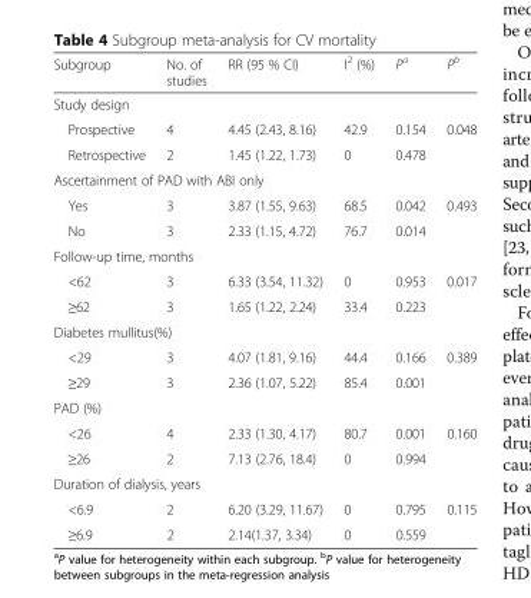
<table><thead><tr><td>Subgroup</td><td>No. of studies</td><td>RR (95 % CI)</td><td>I<sup>2</sup> (%)</td><td>P<sup>a</sup></td><td>P<sup>b</sup></td></tr></thead><tbody><tr><td colspan="6">Study design</td></tr><tr><td>Prospective</td><td>4</td><td>4.45 (2.43, 8.16)</td><td>42.9</td><td>0.154</td><td rowspan="2">0.048</td></tr><tr><td>Retrospective</td><td>2</td><td>1.45 (1.22, 1.73)</td><td>0</td><td>0.478</td></tr><tr><td colspan="6">Ascertainment of PAD with ABI only</td></tr><tr><td>Yes</td><td>3</td><td>3.87 (1.55, 9.63)</td><td>68.5</td><td>0.042</td><td rowspan="2">0.493</td></tr><tr><td>No</td><td>3</td><td>2.33 (1.15, 4.72)</td><td>76.7</td><td>0.014</td></tr><tr><td colspan="6">Follow-up time, months</td></tr><tr><td>&lt;62</td><td>3</td><td>6.33 (3.54, 11.32)</td><td>0</td><td>0.953</td><td rowspan="2">0.017</td></tr><tr><td>≥62</td><td>3</td><td>1.65 (1.22, 2.24)</td><td>33.4</td><td>0.223</td></tr><tr><td colspan="6">Diabetes mullitus(%)</td></tr><tr><td>&lt;29</td><td>3</td><td>4.07 (1.81, 9.16)</td><td>44.4</td><td>0.166</td><td>0.389</td></tr><tr><td>≥29</td><td>3</td><td>2.36 (1.07, 5.22)</td><td>85.4</td><td>0.001</td><td></td></tr><tr><td colspan="6">PAD (%)</td></tr><tr><td>&lt;26</td><td>4</td><td>2.33 (1.30, 4.17)</td><td>80.7</td><td>0.001</td><td rowspan="2">0.160</td></tr><tr><td>≥26</td><td>2</td><td>7.13 (2.76, 18.4)</td><td>0</td><td>0.994</td></tr><tr><td colspan="6">Duration of dialysis, years</td></tr><tr><td>&lt;6.9</td><td>2</td><td>6.20 (3.29, 11.67)</td><td>0</td><td>0.795</td><td>0.115</td></tr><tr><td>≥6.9</td><td>2</td><td>2.14(1.37, 3.34)</td><td>0</td><td>0.559</td><td></td></tr></tbody></table>